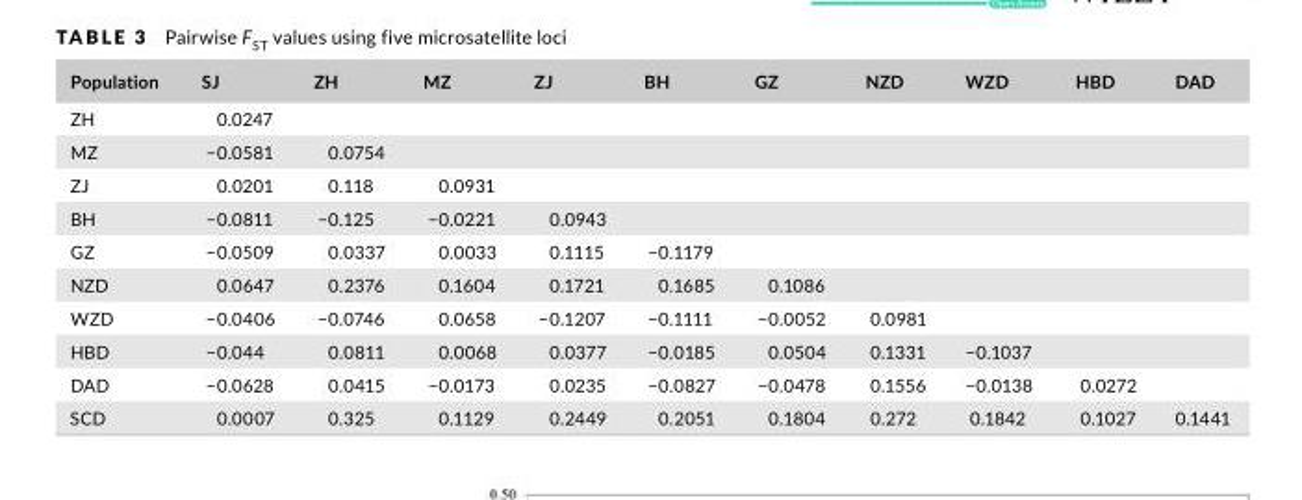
<table><thead><tr><td>Population</td><td>SJ</td><td>ZH</td><td>MZ</td><td>ZJ</td><td>BH</td><td>GZ</td><td>NZD</td><td>WZD</td><td>HBD</td><td>DAD</td></tr></thead><tbody><tr><td>ZH</td><td>0.0247</td><td></td><td></td><td></td><td></td><td></td><td></td><td></td><td></td><td></td></tr><tr><td>MZ</td><td>−0.0581</td><td>0.0754</td><td></td><td></td><td></td><td></td><td></td><td></td><td></td><td></td></tr><tr><td>ZJ</td><td>0.0201</td><td>0.118</td><td>0.0931</td><td></td><td></td><td></td><td></td><td></td><td></td><td></td></tr><tr><td>BH</td><td>−0.0811</td><td>−0.125</td><td>−0.0221</td><td>0.0943</td><td></td><td></td><td></td><td></td><td></td><td></td></tr><tr><td>GZ</td><td>−0.0509</td><td>0.0337</td><td>0.0033</td><td>0.1115</td><td>−0.1179</td><td></td><td></td><td></td><td></td><td></td></tr><tr><td>NZD</td><td>0.0647</td><td>0.2376</td><td>0.1604</td><td>0.1721</td><td>0.1685</td><td>0.1086</td><td></td><td></td><td></td><td></td></tr><tr><td>WZD</td><td>−0.0406</td><td>−0.0746</td><td>0.0658</td><td>−0.1207</td><td>−0.1111</td><td>−0.0052</td><td>0.0981</td><td></td><td></td><td></td></tr><tr><td>HBD</td><td>−0.044</td><td>0.0811</td><td>0.0068</td><td>0.0377</td><td>−0.0185</td><td>0.0504</td><td>0.1331</td><td>−0.1037</td><td></td><td></td></tr><tr><td>DAD</td><td>−0.0628</td><td>0.0415</td><td>−0.0173</td><td>0.0235</td><td>−0.0827</td><td>−0.0478</td><td>0.1556</td><td>−0.0138</td><td>0.0272</td><td></td></tr><tr><td>SCD</td><td>0.0007</td><td>0.325</td><td>0.1129</td><td>0.2449</td><td>0.2051</td><td>0.1804</td><td>0.272</td><td>0.1842</td><td>0.1027</td><td>0.1441</td></tr></tbody></table>